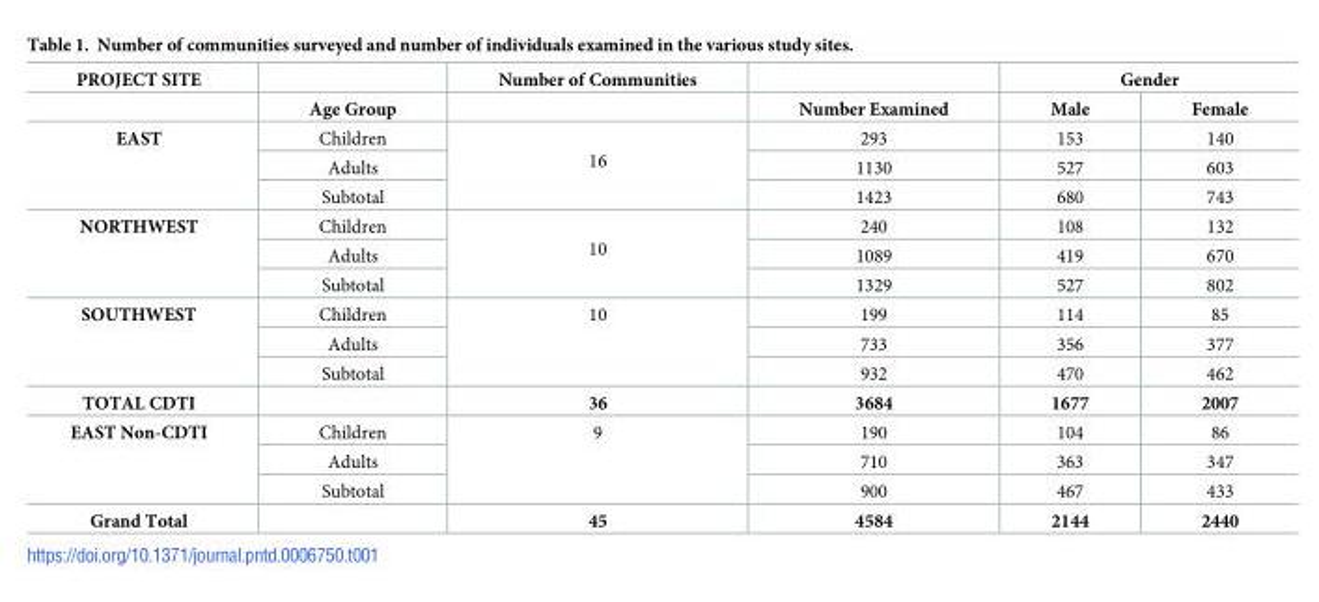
<table><thead><tr><td rowspan="2">PROJECT SITE</td><td rowspan="2">Age Group</td><td rowspan="2">Number of Communities</td><td rowspan="2">Number Examined</td><td colspan="2">Gender</td></tr><tr><td>Male</td><td>Female</td></tr></thead><tbody><tr><td rowspan="3">EAST</td><td>Children</td><td rowspan="3">16</td><td>293</td><td>153</td><td>140</td></tr><tr><td>Adults</td><td>1130</td><td>527</td><td>603</td></tr><tr><td>Subtotal</td><td>1423</td><td>680</td><td>743</td></tr><tr><td rowspan="3">NORTHWEST</td><td>Children</td><td rowspan="3">10</td><td>240</td><td>108</td><td>132</td></tr><tr><td>Adults</td><td>1089</td><td>419</td><td>670</td></tr><tr><td>Subtotal</td><td>1329</td><td>527</td><td>802</td></tr><tr><td rowspan="3">SOUTHWEST</td><td>Children</td><td rowspan="3">10</td><td>199</td><td>114</td><td>85</td></tr><tr><td>Adults</td><td>733</td><td>356</td><td>377</td></tr><tr><td>Subtotal</td><td>932</td><td>470</td><td>462</td></tr><tr><td>TOTAL CDTI</td><td></td><td>36</td><td>3684</td><td>1677</td><td>2007</td></tr><tr><td rowspan="3">EAST Non-CDTI</td><td>Children</td><td rowspan="3">9</td><td>190</td><td>104</td><td>86</td></tr><tr><td>Adults</td><td>710</td><td>363</td><td>347</td></tr><tr><td>Subtotal</td><td>900</td><td>467</td><td>433</td></tr><tr><td>Grand Total</td><td></td><td>45</td><td>4584</td><td>2144</td><td>2440</td></tr></tbody></table>